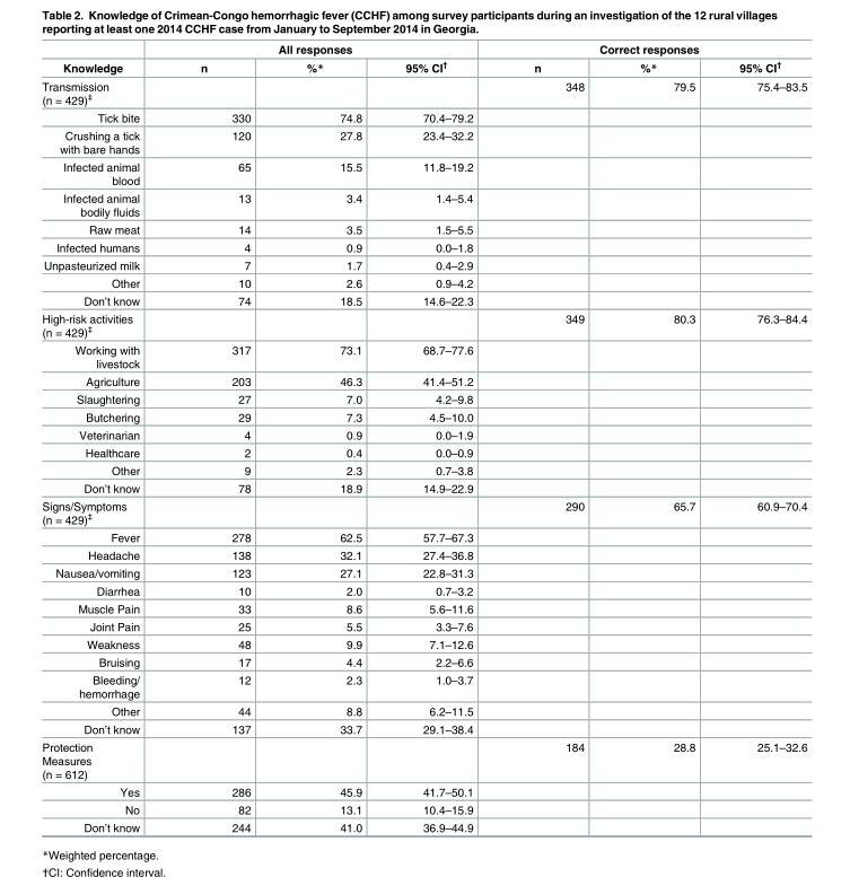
<table><thead><tr><td rowspan="2">Knowledge</td><td colspan="3">All responses</td><td colspan="3">Correct responses</td></tr><tr><td>n</td><td>%*</td><td>95% CI<sup>†</sup></td><td>n</td><td>%*</td><td>95% CI<sup>†</sup></td></tr></thead><tbody><tr><td>Transmission (n = 429)‡</td><td></td><td></td><td></td><td>348</td><td>79.5</td><td>75.4–83.5</td></tr><tr><td>Tick bite</td><td>330</td><td>74.8</td><td>70.4–79.2</td><td></td><td></td><td></td></tr><tr><td>Crushing a tick with bare hands</td><td>120</td><td>27.8</td><td>23.4–32.2</td><td></td><td></td><td></td></tr><tr><td>Infected animal blood</td><td>65</td><td>15.5</td><td>11.8–19.2</td><td></td><td></td><td></td></tr><tr><td>Infected animal bodily fluids</td><td>13</td><td>3.4</td><td>1.4–5.4</td><td></td><td></td><td></td></tr><tr><td>Raw meat</td><td>14</td><td>3.5</td><td>1.5–5.5</td><td></td><td></td><td></td></tr><tr><td>Infected humans</td><td>4</td><td>0.9</td><td>0.0–1.8</td><td></td><td></td><td></td></tr><tr><td>Unpasteurized milk</td><td>7</td><td>1.7</td><td>0.4–2.9</td><td></td><td></td><td></td></tr><tr><td>Other</td><td>10</td><td>2.6</td><td>0.9–4.2</td><td></td><td></td><td></td></tr><tr><td>Don’t know</td><td>74</td><td>18.5</td><td>14.6–22.3</td><td></td><td></td><td></td></tr><tr><td>High-risk activities (n = 429)‡</td><td></td><td></td><td></td><td>349</td><td>80.3</td><td>76.3–84.4</td></tr><tr><td>Working with livestock</td><td>317</td><td>73.1</td><td>68.7–77.6</td><td></td><td></td><td></td></tr><tr><td>Agriculture</td><td>203</td><td>46.3</td><td>41.4–51.2</td><td></td><td></td><td></td></tr><tr><td>Slaughtering</td><td>27</td><td>7.0</td><td>4.2–9.8</td><td></td><td></td><td></td></tr><tr><td>Butchering</td><td>29</td><td>7.3</td><td>4.5–10.0</td><td></td><td></td><td></td></tr><tr><td>Veterinarian</td><td>4</td><td>0.9</td><td>0.0–1.9</td><td></td><td></td><td></td></tr><tr><td>Healthcare</td><td>2</td><td>0.4</td><td>0.0–0.9</td><td></td><td></td><td></td></tr><tr><td>Other</td><td>9</td><td>2.3</td><td>0.7–3.8</td><td></td><td></td><td></td></tr><tr><td>Don’t know</td><td>78</td><td>18.9</td><td>14.9–22.9</td><td></td><td></td><td></td></tr><tr><td>Signs/Symptoms (n = 429)‡</td><td></td><td></td><td></td><td>290</td><td>65.7</td><td>60.9–70.4</td></tr><tr><td>Fever</td><td>278</td><td>62.5</td><td>57.7–67.3</td><td></td><td></td><td></td></tr><tr><td>Headache</td><td>138</td><td>32.1</td><td>27.4–36.8</td><td></td><td></td><td></td></tr><tr><td>Nausea/vomiting</td><td>123</td><td>27.1</td><td>22.8–31.3</td><td></td><td></td><td></td></tr><tr><td>Diarrhea</td><td>10</td><td>2.0</td><td>0.7–3.2</td><td></td><td></td><td></td></tr><tr><td>Muscle Pain</td><td>33</td><td>8.6</td><td>5.6–11.6</td><td></td><td></td><td></td></tr><tr><td>Joint Pain</td><td>25</td><td>5.5</td><td>3.3–7.6</td><td></td><td></td><td></td></tr><tr><td>Weakness</td><td>48</td><td>9.9</td><td>7.1–12.6</td><td></td><td></td><td></td></tr><tr><td>Bruising</td><td>17</td><td>4.4</td><td>2.2–6.6</td><td></td><td></td><td></td></tr><tr><td>Bleeding/ hemorrhage</td><td>12</td><td>2.3</td><td>1.0–3.7</td><td></td><td></td><td></td></tr><tr><td>Other</td><td>44</td><td>8.8</td><td>6.2–11.5</td><td></td><td></td><td></td></tr><tr><td>Don’t know</td><td>137</td><td>33.7</td><td>29.1–38.4</td><td></td><td></td><td></td></tr><tr><td>Protection Measures (n = 612)</td><td></td><td></td><td></td><td>184</td><td>28.8</td><td>25.1–32.6</td></tr><tr><td>Yes</td><td>286</td><td>45.9</td><td>41.7–50.1</td><td></td><td></td><td></td></tr><tr><td>No</td><td>82</td><td>13.1</td><td>10.4–15.9</td><td></td><td></td><td></td></tr><tr><td>Don’t know</td><td>244</td><td>41.0</td><td>36.9–44.9</td><td></td><td></td><td></td></tr></tbody></table>